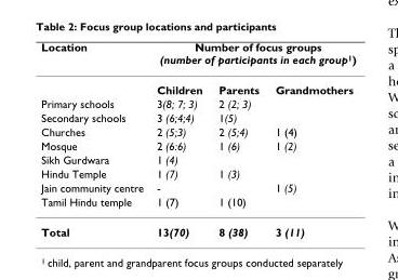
<table><thead><tr><td rowspan="2">Location</td><td colspan="3">Number of focus groups (number of participants in each group<sup>1</sup>)</td></tr><tr><td>Children</td><td>Parents</td><td>Grandmothers</td></tr></thead><tbody><tr><td>Primary schools</td><td>3(8; 7; 3)</td><td>2 (2; 3)</td><td></td></tr><tr><td>Secondary schools</td><td>3 (6;4;4)</td><td>1(5)</td><td></td></tr><tr><td>Churches</td><td>2 (5;3)</td><td>2 (5;4)</td><td>1 (4)</td></tr><tr><td>Mosque</td><td>2 (6:6)</td><td>1 (6)</td><td>1 (2)</td></tr><tr><td>Sikh Gurdwara</td><td>1 (4)</td><td></td><td></td></tr><tr><td>Hindu Temple</td><td>1 (7)</td><td>1 (3)</td><td></td></tr><tr><td>Jain community centre</td><td>-</td><td></td><td>1 (5)</td></tr><tr><td>Tamil Hindu temple</td><td>1 (7)</td><td>1 (10)</td><td></td></tr><tr><td>Total</td><td>13(70)</td><td>8 (38)</td><td>3 (11)</td></tr></tbody></table>